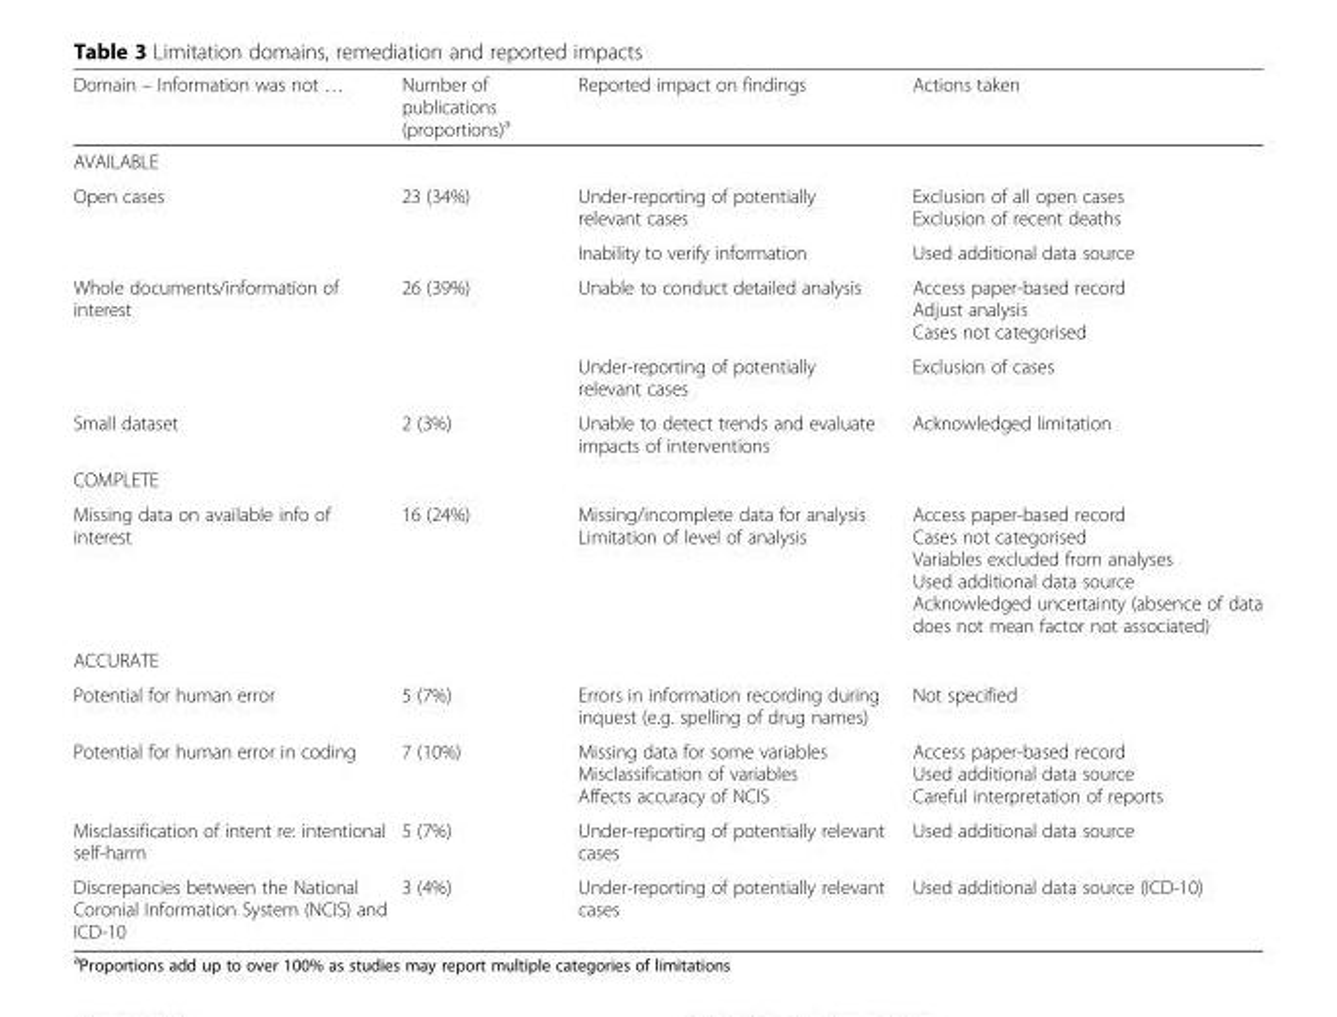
<table><thead><tr><td>Domain – Information was not …</td><td>Number of publications (proportions)<sup>a</sup></td><td>Reported impact on findings</td><td>Actions taken</td></tr></thead><tbody><tr><td colspan="4">AVAILABLE</td></tr><tr><td rowspan="2">Open cases</td><td rowspan="2">23 (34%)</td><td>Under-reporting of potentially relevant cases</td><td>Exclusion of all open cases Exclusion of recent deaths</td></tr><tr><td>Inability to verify information</td><td>Used additional data source</td></tr><tr><td rowspan="2">Whole documents/information of interest</td><td rowspan="2">26 (39%)</td><td>Unable to conduct detailed analysis</td><td>Access paper-based record Adjust analysis Cases not categorised</td></tr><tr><td>Under-reporting of potentially relevant cases</td><td>Exclusion of cases</td></tr><tr><td>Small dataset</td><td>2 (3%)</td><td>Unable to detect trends and evaluate impacts of interventions</td><td>Acknowledged limitation</td></tr><tr><td colspan="4">COMPLETE</td></tr><tr><td>Missing data on available info of interest</td><td>16 (24%)</td><td>Missing/incomplete data for analysis Limitation of level of analysis</td><td>Access paper-based record Cases not categorised Variables excluded from analyses Used additional data source Acknowledged uncertainty (absence of data does not mean factor not associated)</td></tr><tr><td colspan="4">ACCURATE</td></tr><tr><td>Potential for human error</td><td>5 (7%)</td><td>Errors in information recording during inquest (e.g. spelling of drug names)</td><td>Not specified</td></tr><tr><td>Potential for human error in coding</td><td>7 (10%)</td><td>Missing data for some variables Misclassification of variables Affects accuracy of NCIS</td><td>Access paper-based record Used additional data source Careful interpretation of reports</td></tr><tr><td>Misclassification of intent re: intentional self-harm</td><td>5 (7%)</td><td>Under-reporting of potentially relevant cases</td><td>Used additional data source</td></tr><tr><td>Discrepancies between the National Coronial Information System (NCIS) and ICD-10</td><td>3 (4%)</td><td>Under-reporting of potentially relevant cases</td><td>Used additional data source (ICD-10)</td></tr></tbody></table>